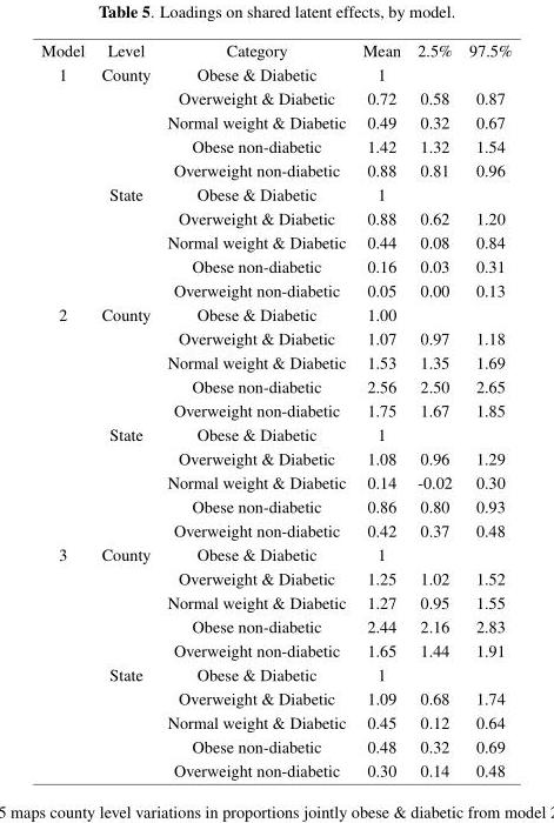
<table><thead><tr><td>Model</td><td>Level</td><td>Category</td><td>Mean</td><td>2.5%</td><td>97.5%</td></tr></thead><tbody><tr><td rowspan="10">1</td><td rowspan="5">County</td><td>Obese &amp; Diabetic</td><td>1</td><td></td><td></td></tr><tr><td>Overweight &amp; Diabetic</td><td>0.72</td><td>0.58</td><td>0.87</td></tr><tr><td>Normal weight &amp; Diabetic</td><td>0.49</td><td>0.32</td><td>0.67</td></tr><tr><td>Obese non-diabetic</td><td>1.42</td><td>1.32</td><td>1.54</td></tr><tr><td>Overweight non-diabetic</td><td>0.88</td><td>0.81</td><td>0.96</td></tr><tr><td rowspan="5">State</td><td>Obese &amp; Diabetic</td><td>1</td><td></td><td></td></tr><tr><td>Overweight &amp; Diabetic</td><td>0.88</td><td>0.62</td><td>1.20</td></tr><tr><td>Normal weight &amp; Diabetic</td><td>0.44</td><td>0.08</td><td>0.84</td></tr><tr><td>Obese non-diabetic</td><td>0.16</td><td>0.03</td><td>0.31</td></tr><tr><td>Overweight non-diabetic</td><td>0.05</td><td>0.00</td><td>0.13</td></tr><tr><td rowspan="10">2</td><td rowspan="5">County</td><td>Obese &amp; Diabetic</td><td>1.00</td><td></td><td></td></tr><tr><td>Overweight &amp; Diabetic</td><td>1.07</td><td>0.97</td><td>1.18</td></tr><tr><td>Normal weight &amp; Diabetic</td><td>1.53</td><td>1.35</td><td>1.69</td></tr><tr><td>Obese non-diabetic</td><td>2.56</td><td>2.50</td><td>2.65</td></tr><tr><td>Overweight non-diabetic</td><td>1.75</td><td>1.67</td><td>1.85</td></tr><tr><td rowspan="5">State</td><td>Obese &amp; Diabetic</td><td>1</td><td></td><td></td></tr><tr><td>Overweight &amp; Diabetic</td><td>1.08</td><td>0.96</td><td>1.29</td></tr><tr><td>Normal weight &amp; Diabetic</td><td>0.14</td><td>-0.02</td><td>0.30</td></tr><tr><td>Obese non-diabetic</td><td>0.86</td><td>0.80</td><td>0.93</td></tr><tr><td>Overweight non-diabetic</td><td>0.42</td><td>0.37</td><td>0.48</td></tr><tr><td rowspan="10">3</td><td rowspan="5">County</td><td>Obese &amp; Diabetic</td><td>1</td><td></td><td></td></tr><tr><td>Overweight &amp; Diabetic</td><td>1.25</td><td>1.02</td><td>1.52</td></tr><tr><td>Normal weight &amp; Diabetic</td><td>1.27</td><td>0.95</td><td>1.55</td></tr><tr><td>Obese non-diabetic</td><td>2.44</td><td>2.16</td><td>2.83</td></tr><tr><td>Overweight non-diabetic</td><td>1.65</td><td>1.44</td><td>1.91</td></tr><tr><td rowspan="5">State</td><td>Obese &amp; Diabetic</td><td>1</td><td></td><td></td></tr><tr><td>Overweight &amp; Diabetic</td><td>1.09</td><td>0.68</td><td>1.74</td></tr><tr><td>Normal weight &amp; Diabetic</td><td>0.45</td><td>0.12</td><td>0.64</td></tr><tr><td>Obese non-diabetic</td><td>0.48</td><td>0.32</td><td>0.69</td></tr><tr><td>Overweight non-diabetic</td><td>0.30</td><td>0.14</td><td>0.48</td></tr></tbody></table>